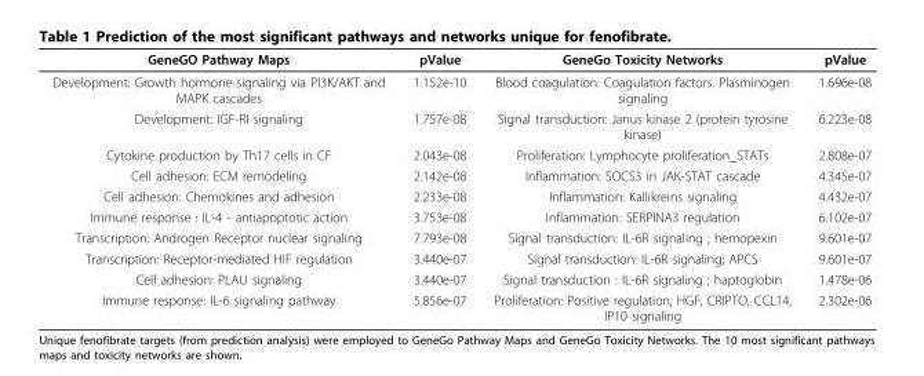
<table><thead><tr><td>GeneGO Pathway Maps</td><td>pValue</td><td>GeneGo Toxicity Networks</td><td>pValue</td></tr></thead><tbody><tr><td>Development: Growth hormone signaling via PI3K/AKT and MAPK cascades</td><td>1.152e-10</td><td>Blood coagulation: Coagulation factors. Plasminogen signaling</td><td>1.696e-08</td></tr><tr><td>Development: IGF-RI signaling</td><td>1.757e-08</td><td>Signal transduction: Janus kinase 2 (protein tyrosine kinase)</td><td>6.223e-08</td></tr><tr><td>Cytokine production by Th17 cells in CF</td><td>2.043e-08</td><td>Proliferation: Lymphocyte proliferation_STATs</td><td>2.808e-07</td></tr><tr><td>Cell adhesion: ECM remodeling</td><td>2.142e-08</td><td>Inflammation: SOCS3 in JAK-STAT cascade</td><td>4.345e-07</td></tr><tr><td>Cell adhesion: Chemokines and adhesion</td><td>2.233e-08</td><td>Inflammation: Kallikreins signaling</td><td>4.432e-07</td></tr><tr><td>Immune response : IL-4 - antiapoptotic action</td><td>3.753e-08</td><td>Inflammation: SERPINA3 regulation</td><td>6.102e-07</td></tr><tr><td>Transcription: Androgen Receptor nuclear signaling</td><td>7.793e-08</td><td>Signal transduction: IL-6R signaling ; hemopexin</td><td>9.601e-07</td></tr><tr><td>Transcription: Receptor-mediated HIF regulation</td><td>3.440e-07</td><td>Signal transduction: IL-6R signaling; APCS</td><td>9.601e-07</td></tr><tr><td>Cell adhesion: PLAU signaling</td><td>3.440e-07</td><td>Signal transduction : IL-6R signaling ; haptoglobin</td><td>1.478e-06</td></tr><tr><td>Immune response: IL-6 signaling pathway</td><td>5.856e-07</td><td>Proliferation: Positive regulation, HGF, CRIPTO, CCL14, IP10 signaling</td><td>2.302e-06</td></tr></tbody></table>